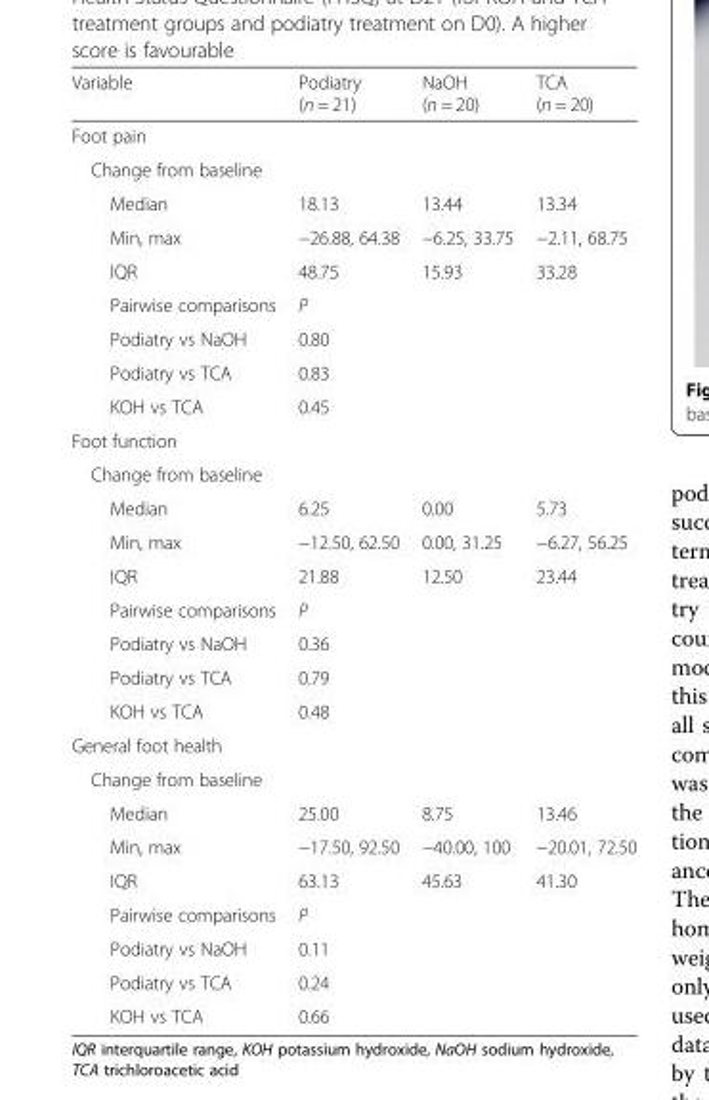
<table><thead><tr><td>Variable</td><td>Podiatry (n = 21)</td><td>NaOH (n = 20)</td><td>TCA (n = 20)</td></tr></thead><tbody><tr><td colspan="4">Foot pain</td></tr><tr><td colspan="4">Change from baseline</td></tr><tr><td>Median</td><td>18.13</td><td>13.44</td><td>13.34</td></tr><tr><td>Min, max</td><td>−26.88, 64.38</td><td>−6.25, 33.75</td><td>−2.11, 68.75</td></tr><tr><td>IQR</td><td>48.75</td><td>15.93</td><td>33.28</td></tr><tr><td>Pairwise comparisons</td><td>P</td><td></td><td></td></tr><tr><td>Podiatry vs NaOH</td><td>0.80</td><td></td><td></td></tr><tr><td>Podiatry vs TCA</td><td>0.83</td><td></td><td></td></tr><tr><td>KOH vs TCA</td><td>0.45</td><td></td><td></td></tr><tr><td colspan="4">Foot function</td></tr><tr><td colspan="4">Change from baseline</td></tr><tr><td>Median</td><td>6.25</td><td>0.00</td><td>5.73</td></tr><tr><td>Min, max</td><td>−12.50, 62.50</td><td>0.00, 31.25</td><td>−6.27, 56.25</td></tr><tr><td>IQR</td><td>21.88</td><td>12.50</td><td>23.44</td></tr><tr><td>Pairwise comparisons</td><td>P</td><td></td><td></td></tr><tr><td>Podiatry vs NaOH</td><td>0.36</td><td></td><td></td></tr><tr><td>Podiatry vs TCA</td><td>0.79</td><td></td><td></td></tr><tr><td>KOH vs TCA</td><td>0.48</td><td></td><td></td></tr><tr><td colspan="4">General foot health</td></tr><tr><td colspan="4">Change from baseline</td></tr><tr><td>Median</td><td>25.00</td><td>8.75</td><td>13.46</td></tr><tr><td>Min, max</td><td>−17.50, 92.50</td><td>−40.00, 100</td><td>−20.01, 72.50</td></tr><tr><td>IQR</td><td>63.13</td><td>45.63</td><td>41.30</td></tr><tr><td>Pairwise comparisons</td><td>P</td><td></td><td></td></tr><tr><td>Podiatry vs NaOH</td><td>0.11</td><td></td><td></td></tr><tr><td>Podiatry vs TCA</td><td>0.24</td><td></td><td></td></tr><tr><td>KOH vs TCA</td><td>0.66</td><td></td><td></td></tr></tbody></table>